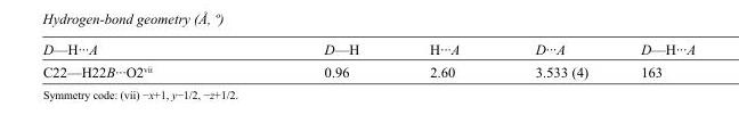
<table><tbody><tr><td>D—H···A</td><td>D—H</td><td>H···A</td><td>D···A</td><td>D—H···A</td></tr><tr><td>C22—H22B···O2<sup>vii</sup></td><td>0.96</td><td>2.60</td><td>3.533 (4)</td><td>163</td></tr></tbody></table>